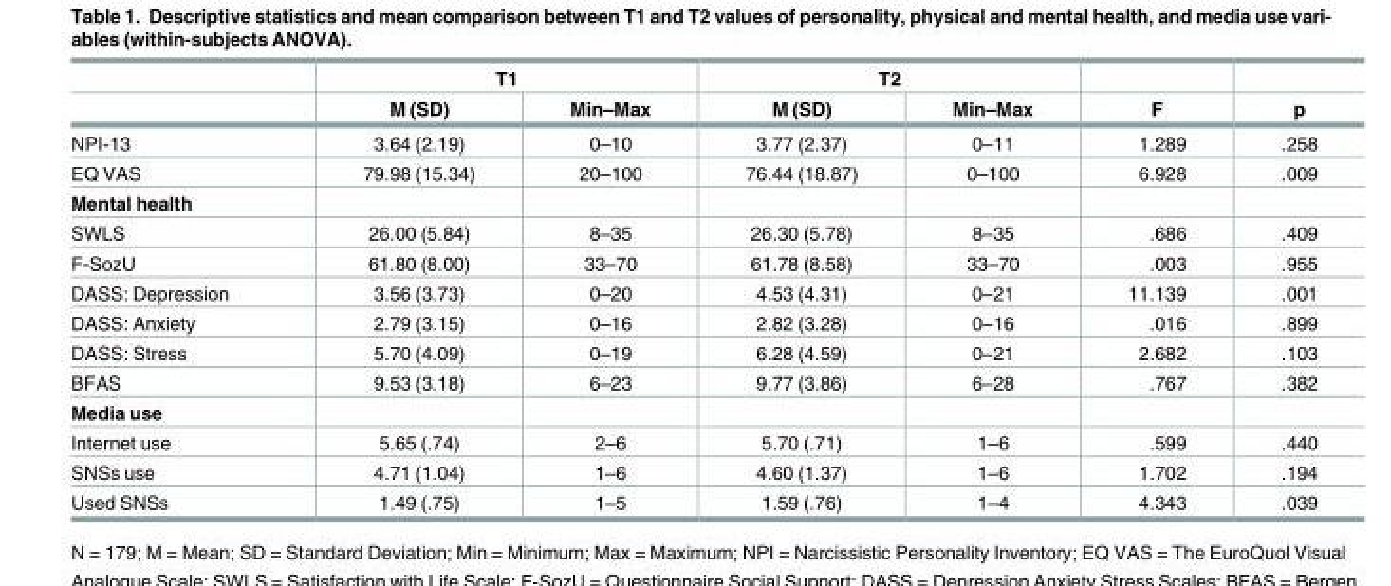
<table><thead><tr><td rowspan="2"></td><td colspan="2">T1</td><td colspan="2">T2</td><td rowspan="2">F</td><td rowspan="2">p</td></tr><tr><td>M (SD)</td><td>Min–Max</td><td>M (SD)</td><td>Min–Max</td></tr></thead><tbody><tr><td>NPI-13</td><td>3.64 (2.19)</td><td>0–10</td><td>3.77 (2.37)</td><td>0–11</td><td>1.289</td><td>.258</td></tr><tr><td>EQ VAS</td><td>79.98 (15.34)</td><td>20–100</td><td>76.44 (18.87)</td><td>0–100</td><td>6.928</td><td>.009</td></tr><tr><td colspan="7">Mental health</td></tr><tr><td>SWLS</td><td>26.00 (5.84)</td><td>8–35</td><td>26.30 (5.78)</td><td>8–35</td><td>.686</td><td>.409</td></tr><tr><td>F-SozU</td><td>61.80 (8.00)</td><td>33–70</td><td>61.78 (8.58)</td><td>33–70</td><td>.003</td><td>.955</td></tr><tr><td>DASS: Depression</td><td>3.56 (3.73)</td><td>0–20</td><td>4.53 (4.31)</td><td>0–21</td><td>11.139</td><td>.001</td></tr><tr><td>DASS: Anxiety</td><td>2.79 (3.15)</td><td>0–16</td><td>2.82 (3.28)</td><td>0–16</td><td>.016</td><td>.899</td></tr><tr><td>DASS: Stress</td><td>5.70 (4.09)</td><td>0–19</td><td>6.28 (4.59)</td><td>0–21</td><td>2.682</td><td>.103</td></tr><tr><td>BFAS</td><td>9.53 (3.18)</td><td>6–23</td><td>9.77 (3.86)</td><td>6–28</td><td>.767</td><td>.382</td></tr><tr><td colspan="7">Media use</td></tr><tr><td>Internet use</td><td>5.65 (.74)</td><td>2–6</td><td>5.70 (.71)</td><td>1–6</td><td>.599</td><td>.440</td></tr><tr><td>SNSs use</td><td>4.71 (1.04)</td><td>1–6</td><td>4.60 (1.37)</td><td>1–6</td><td>1.702</td><td>.194</td></tr><tr><td>Used SNSs</td><td>1.49 (.75)</td><td>1–5</td><td>1.59 (.76)</td><td>1–4</td><td>4.343</td><td>.039</td></tr></tbody></table>